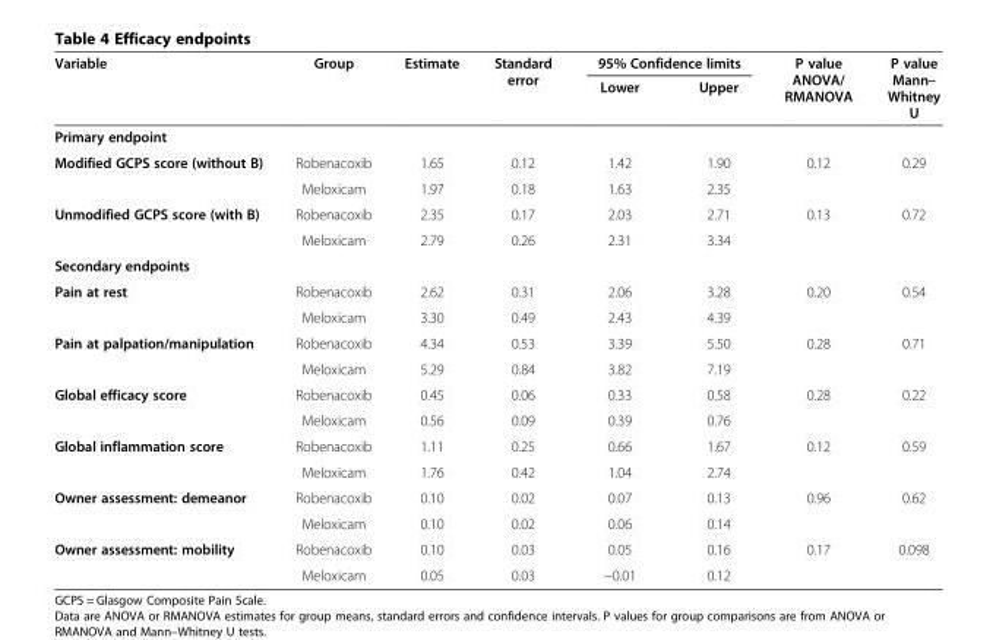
<table><thead><tr><td rowspan="2">Variable</td><td rowspan="2">Group</td><td rowspan="2">Estimate</td><td rowspan="2">Standard error</td><td colspan="2">95% Confidence limits</td><td rowspan="2">P value ANOVA/ RMANOVA</td><td rowspan="2">P value Mann– Whitney U</td></tr><tr><td>Lower</td><td>Upper</td></tr></thead><tbody><tr><td colspan="8">Primary endpoint</td></tr><tr><td rowspan="2">Modified GCPS score (without B)</td><td>Robenacoxib</td><td>1.65</td><td>0.12</td><td>1.42</td><td>1.90</td><td>0.12</td><td>0.29</td></tr><tr><td>Meloxicam</td><td>1.97</td><td>0.18</td><td>1.63</td><td>2.35</td><td></td><td></td></tr><tr><td rowspan="2">Unmodified GCPS score (with B)</td><td>Robenacoxib</td><td>2.35</td><td>0.17</td><td>2.03</td><td>2.71</td><td>0.13</td><td>0.72</td></tr><tr><td>Meloxicam</td><td>2.79</td><td>0.26</td><td>2.31</td><td>3.34</td><td></td><td></td></tr><tr><td colspan="8">Secondary endpoints</td></tr><tr><td rowspan="2">Pain at rest</td><td>Robenacoxib</td><td>2.62</td><td>0.31</td><td>2.06</td><td>3.28</td><td>0.20</td><td>0.54</td></tr><tr><td>Meloxicam</td><td>3.30</td><td>0.49</td><td>2.43</td><td>4.39</td><td></td><td></td></tr><tr><td rowspan="2">Pain at palpation/manipulation</td><td>Robenacoxib</td><td>4.34</td><td>0.53</td><td>3.39</td><td>5.50</td><td>0.28</td><td>0.71</td></tr><tr><td>Meloxicam</td><td>5.29</td><td>0.84</td><td>3.82</td><td>7.19</td><td></td><td></td></tr><tr><td rowspan="2">Global efficacy score</td><td>Robenacoxib</td><td>0.45</td><td>0.06</td><td>0.33</td><td>0.58</td><td>0.28</td><td>0.22</td></tr><tr><td>Meloxicam</td><td>0.56</td><td>0.09</td><td>0.39</td><td>0.76</td><td></td><td></td></tr><tr><td rowspan="2">Global inflammation score</td><td>Robenacoxib</td><td>1.11</td><td>0.25</td><td>0.66</td><td>1.67</td><td>0.12</td><td>0.59</td></tr><tr><td>Meloxicam</td><td>1.76</td><td>0.42</td><td>1.04</td><td>2.74</td><td></td><td></td></tr><tr><td rowspan="2">Owner assessment: demeanor</td><td>Robenacoxib</td><td>0.10</td><td>0.02</td><td>0.07</td><td>0.13</td><td>0.96</td><td>0.62</td></tr><tr><td>Meloxicam</td><td>0.10</td><td>0.02</td><td>0.06</td><td>0.14</td><td></td><td></td></tr><tr><td rowspan="2">Owner assessment: mobility</td><td>Robenacoxib</td><td>0.10</td><td>0.03</td><td>0.05</td><td>0.16</td><td>0.17</td><td>0.098</td></tr><tr><td>Meloxicam</td><td>0.05</td><td>0.03</td><td>−0.01</td><td>0.12</td><td></td><td></td></tr></tbody></table>